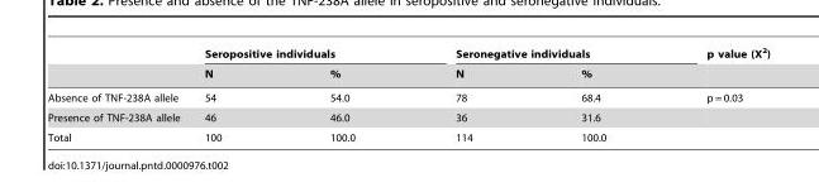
<table><thead><tr><td rowspan="2"></td><td colspan="2">Seropositive individuals</td><td colspan="2">Seronegative individuals</td><td rowspan="2">p value (X<sup>2</sup>)</td></tr><tr><td>N</td><td>%</td><td>N</td><td>%</td></tr></thead><tbody><tr><td>Absence of TNF-238A allele</td><td>54</td><td>54.0</td><td>78</td><td>68.4</td><td>p = 0.03</td></tr><tr><td>Presence of TNF-238A allele</td><td>46</td><td>46.0</td><td>36</td><td>31.6</td><td></td></tr><tr><td>Total</td><td>100</td><td>100.0</td><td>114</td><td>100.0</td><td></td></tr></tbody></table>